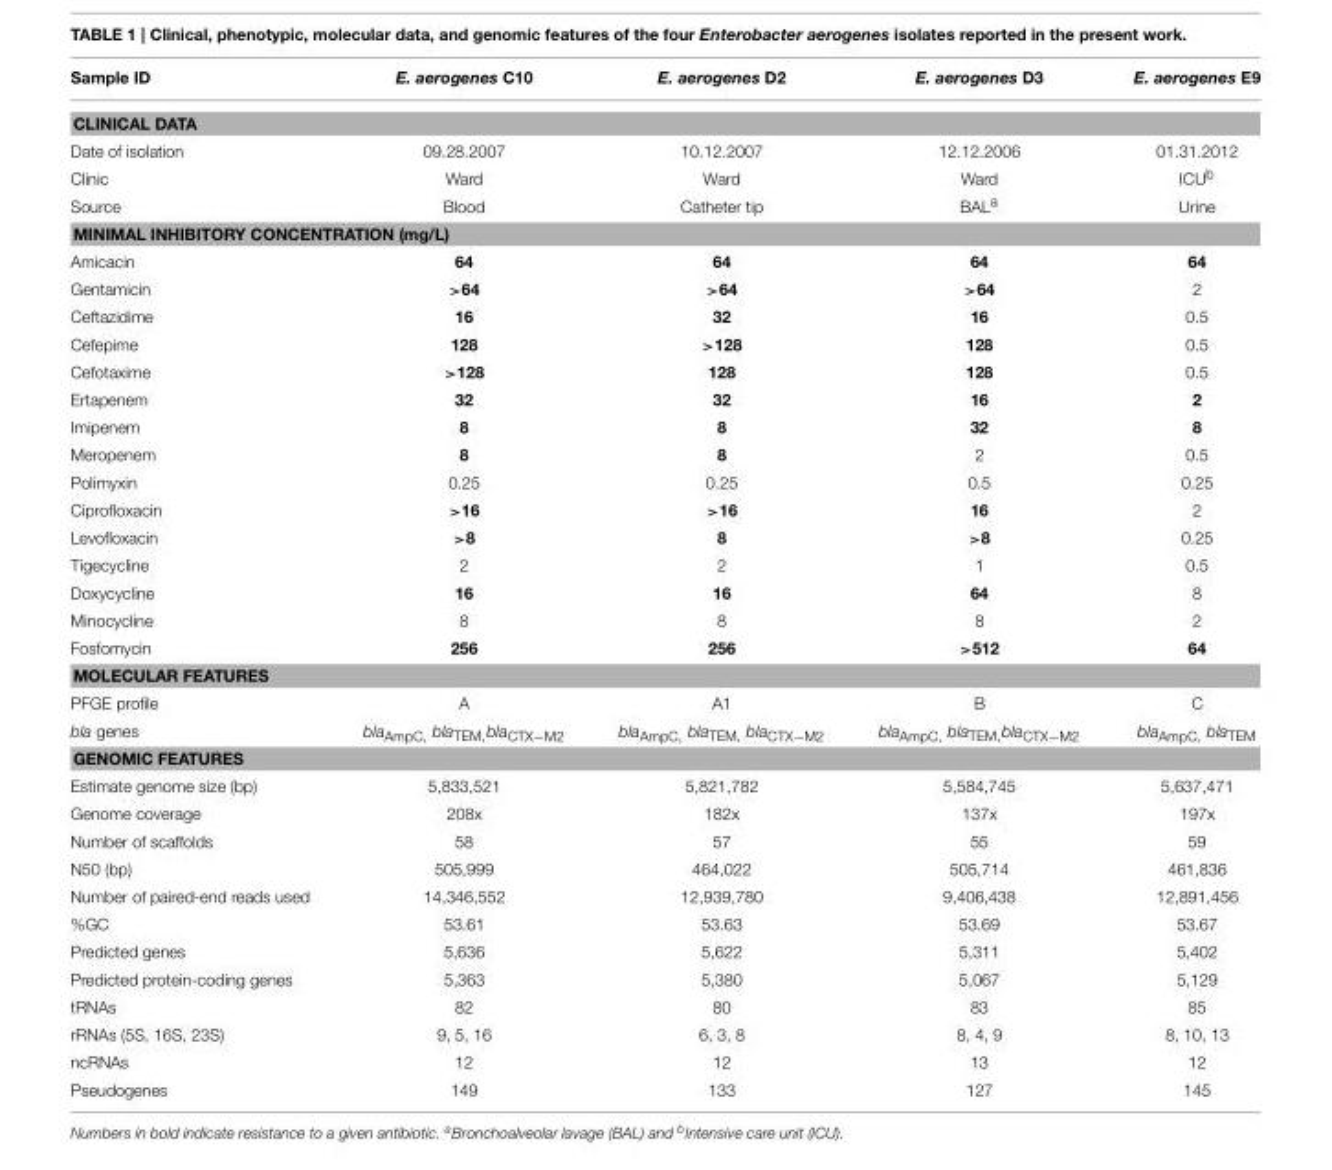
<table><thead><tr><td>Sample ID</td><td>E. aerogenes C10</td><td>E. aerogenes D2</td><td>E. aerogenes D3</td><td>E. aerogenes E9</td></tr></thead><tbody><tr><td colspan="5">CLINICAL DATA</td></tr><tr><td>Date of isolation</td><td>09.28.2007</td><td>10.12.2007</td><td>12.12.2006</td><td>01.31.2012</td></tr><tr><td>Clinic</td><td>Ward</td><td>Ward</td><td>Ward</td><td>ICU<sup>b</sup></td></tr><tr><td>Source</td><td>Blood</td><td>Catheter tip</td><td>BAL<sup>a</sup></td><td>Urine</td></tr><tr><td colspan="5">MINIMAL INHIBITORY CONCENTRATION (mg/L)</td></tr><tr><td>Amicacin</td><td>64</td><td>64</td><td>64</td><td>64</td></tr><tr><td>Gentamicin</td><td>&gt;64</td><td>&gt;64</td><td>&gt;64</td><td>2</td></tr><tr><td>Ceftazidime</td><td>16</td><td>32</td><td>16</td><td>0.5</td></tr><tr><td>Cefepime</td><td>128</td><td>&gt;128</td><td>128</td><td>0.5</td></tr><tr><td>Cefotaxime</td><td>&gt;128</td><td>128</td><td>128</td><td>0.5</td></tr><tr><td>Ertapenem</td><td>32</td><td>32</td><td>16</td><td>2</td></tr><tr><td>Imipenem</td><td>8</td><td>8</td><td>32</td><td>8</td></tr><tr><td>Meropenem</td><td>8</td><td>8</td><td>2</td><td>0.5</td></tr><tr><td>Polimyxin</td><td>0.25</td><td>0.25</td><td>0.5</td><td>0.25</td></tr><tr><td>Ciprofloxacin</td><td>&gt;16</td><td>&gt;16</td><td>16</td><td>2</td></tr><tr><td>Levofloxacin</td><td>&gt;8</td><td>8</td><td>&gt;8</td><td>0.25</td></tr><tr><td>Tigecycline</td><td>2</td><td>2</td><td>1</td><td>0.5</td></tr><tr><td>Doxycycline</td><td>16</td><td>16</td><td>64</td><td>8</td></tr><tr><td>Minocycline</td><td>8</td><td>8</td><td>8</td><td>2</td></tr><tr><td>Fosfomycin</td><td>256</td><td>256</td><td>&gt;512</td><td>64</td></tr><tr><td colspan="5">MOLECULAR FEATURES</td></tr><tr><td>PFGE profile</td><td>A</td><td>A1</td><td>B</td><td>C</td></tr><tr><td>bla genes</td><td>bla<sub>AmpC</sub>, bla<sub>TEM</sub>,bla<sub>CTX−M2</sub></td><td>bla<sub>AmpC</sub>, bla<sub>TEM</sub>, bla<sub>CTX−M2</sub></td><td>bla<sub>AmpC</sub>, bla<sub>TEM</sub>,bla<sub>CTX−M2</sub></td><td>bla<sub>AmpC</sub>, bla<sub>TEM</sub></td></tr><tr><td colspan="5">GENOMIC FEATURES</td></tr><tr><td>Estimate genome size (bp)</td><td>5,833,521</td><td>5,821,782</td><td>5,584,745</td><td>5,637,471</td></tr><tr><td>Genome coverage</td><td>208x</td><td>182x</td><td>137x</td><td>197x</td></tr><tr><td>Number of scaffolds</td><td>58</td><td>57</td><td>55</td><td>59</td></tr><tr><td>N50 (bp)</td><td>505,999</td><td>464,022</td><td>505,714</td><td>461,836</td></tr><tr><td>Number of paired-end reads used</td><td>14,346,552</td><td>12,939,780</td><td>9,406,438</td><td>12,891,456</td></tr><tr><td>%GC</td><td>53.61</td><td>53.63</td><td>53.69</td><td>53.67</td></tr><tr><td>Predicted genes</td><td>5,636</td><td>5,622</td><td>5,311</td><td>5,402</td></tr><tr><td>Predicted protein-coding genes</td><td>5,363</td><td>5,380</td><td>5,067</td><td>5,129</td></tr><tr><td>tRNAs</td><td>82</td><td>80</td><td>83</td><td>85</td></tr><tr><td>rRNAs (5S, 16S, 23S)</td><td>9, 5, 16</td><td>6, 3, 8</td><td>8, 4, 9</td><td>8, 10, 13</td></tr><tr><td>ncRNAs</td><td>12</td><td>12</td><td>13</td><td>12</td></tr><tr><td>Pseudogenes</td><td>149</td><td>133</td><td>127</td><td>145</td></tr></tbody></table>